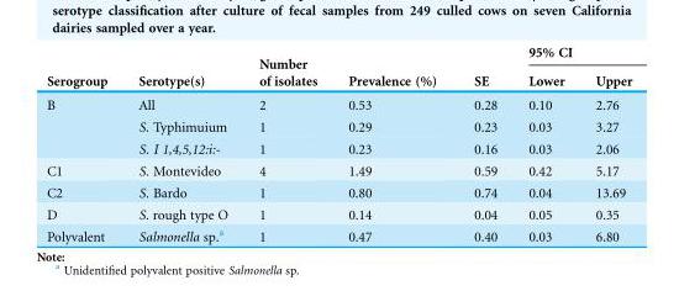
<table><thead><tr><td rowspan="2">Serogroup</td><td rowspan="2">Serotype(s)</td><td rowspan="2">Number of isolates</td><td rowspan="2">Prevalence (%)</td><td rowspan="2">SE</td><td colspan="2">95% CI</td></tr><tr><td>Lower</td><td>Upper</td></tr></thead><tbody><tr><td rowspan="3">B</td><td>All</td><td>2</td><td>0.53</td><td>0.28</td><td>0.10</td><td>2.76</td></tr><tr><td>S. Typhimuium</td><td>1</td><td>0.29</td><td>0.23</td><td>0.03</td><td>3.27</td></tr><tr><td>S. I 1,4,5,12:i:-</td><td>1</td><td>0.23</td><td>0.16</td><td>0.03</td><td>2.06</td></tr><tr><td>C1</td><td>S. Montevideo</td><td>4</td><td>1.49</td><td>0.59</td><td>0.42</td><td>5.17</td></tr><tr><td>C2</td><td>S. Bardo</td><td>1</td><td>0.80</td><td>0.74</td><td>0.04</td><td>13.69</td></tr><tr><td>D</td><td>S. rough type O</td><td>1</td><td>0.14</td><td>0.04</td><td>0.05</td><td>0.35</td></tr><tr><td>Polyvalent</td><td>Salmonella sp.<sup>a</sup></td><td>1</td><td>0.47</td><td>0.40</td><td>0.03</td><td>6.80</td></tr></tbody></table>